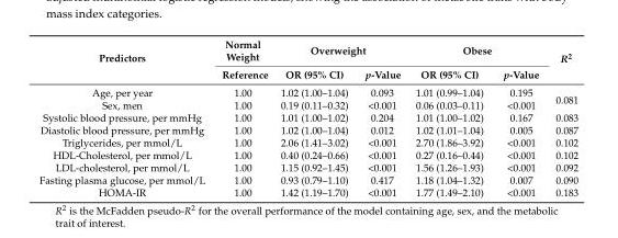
<table><thead><tr><td rowspan="2">Predictors</td><td rowspan="2">Normal Weight Reference</td><td colspan="2">Overweight</td><td colspan="2">Obese</td><td rowspan="2">R<sup>2</sup></td></tr><tr><td>OR (95% CI)</td><td>p-Value</td><td>OR (95% CI)</td><td>p-Value</td></tr></thead><tbody><tr><td>Age, per year</td><td>1.00</td><td>1.02 (1.00–1.04)</td><td>0.093</td><td>1.01 (0.99–1.04)</td><td>0.195</td><td rowspan="2">0.081</td></tr><tr><td>Sex, men</td><td>1.00</td><td>0.19 (0.11–0.32)</td><td>&lt;0.001</td><td>0.06 (0.03–0.11)</td><td>&lt;0.001</td></tr><tr><td>Systolic blood pressure, per mmHg</td><td>1.00</td><td>1.01 (1.00–1.02)</td><td>0.204</td><td>1.01 (1.00–1.02)</td><td>0.167</td><td>0.083</td></tr><tr><td>Diastolic blood pressure, per mmHg</td><td>1.00</td><td>1.02 (1.00–1.04)</td><td>0.012</td><td>1.02 (1.01–1.04)</td><td>0.005</td><td>0.087</td></tr><tr><td>Triglycerides, per mmol/L</td><td>1.00</td><td>2.06 (1.41–3.02)</td><td>&lt;0.001</td><td>2.70 (1.86–3.92)</td><td>&lt;0.001</td><td>0.102</td></tr><tr><td>HDL-Cholesterol, per mmol/L</td><td>1.00</td><td>0.40 (0.24–0.66)</td><td>&lt;0.001</td><td>0.27 (0.16–0.44)</td><td>&lt;0.001</td><td>0.102</td></tr><tr><td>LDL-cholesterol, per mmol/L</td><td>1.00</td><td>1.15 (0.92–1.45)</td><td>&lt;0.001</td><td>1.56 (1.26–1.93)</td><td>&lt;0.001</td><td>0.092</td></tr><tr><td>Fasting plasma glucose, per mmol/L</td><td>1.00</td><td>0.93 (0.79–1.10)</td><td>0.417</td><td>1.18 (1.04–1.32)</td><td>0.007</td><td>0.090</td></tr><tr><td>HOMA-IR</td><td>1.00</td><td>1.42 (1.19–1.70)</td><td>&lt;0.001</td><td>1.77 (1.49–2.10)</td><td>&lt;0.001</td><td>0.183</td></tr></tbody></table>